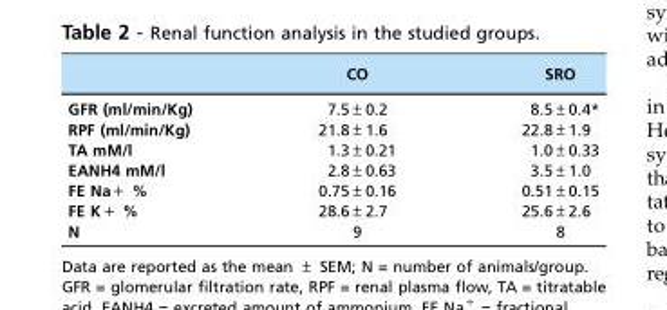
<table><thead><tr><td></td><td>CO</td><td>SRO</td></tr></thead><tbody><tr><td>GFR (ml/min/Kg)</td><td>7.5±0.2</td><td>8.5±0.4*</td></tr><tr><td>RPF (ml/min/Kg)</td><td>21.8±1.6</td><td>22.8±1.9</td></tr><tr><td>TA mM/l</td><td>1.3±0.21</td><td>1.0±0.33</td></tr><tr><td>EANH4 mM/l</td><td>2.8±0.63</td><td>3.5±1.0</td></tr><tr><td>FE Na+ %</td><td>0.75±0.16</td><td>0.51±0.15</td></tr><tr><td>FE K+ %</td><td>28.6±2.7</td><td>25.6±2.6</td></tr><tr><td>N</td><td>9</td><td>8</td></tr></tbody></table>